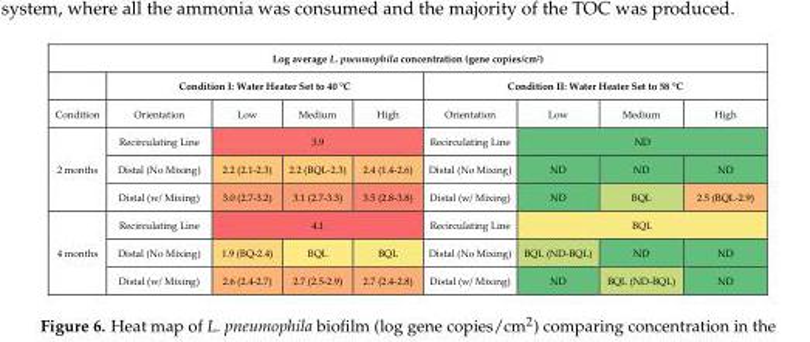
<table><thead><tr><td colspan="9">Log average L. pneumophila concentration (gene copies/cm<sup>2</sup>)</td></tr><tr><td rowspan="2">Condition</td><td colspan="4">Condition I: Water Heater Set to 40 °C</td><td colspan="4">Condition II: Water Heater Set to 58 °C</td></tr><tr><td>Orientation</td><td>Low</td><td>Medium</td><td>High</td><td>Orientation</td><td>Low</td><td>Medium</td><td>High</td></tr></thead><tbody><tr><td rowspan="3">2 months</td><td>Recirculating Line</td><td colspan="3">3.9</td><td>Recirculating Line</td><td colspan="3">ND</td></tr><tr><td>Distal (No Mixing)</td><td>2.2 (2.1-2.3)</td><td>2.2 (BQL-2.3)</td><td>2.4 (1.4-2.6)</td><td>Distal (No Mixing)</td><td>ND</td><td>ND</td><td>ND</td></tr><tr><td>Distal (w/ Mixing)</td><td>3.0 (2.7-3.2)</td><td>3.1 (2.7-3.3)</td><td>3.5 (2.8-3.8)</td><td>Distal (w/ Mixing)</td><td>ND</td><td>BQL</td><td>2.5 (BQL-2.9)</td></tr><tr><td rowspan="3">4 months</td><td>Recirculating Line</td><td colspan="3">4.1</td><td>Recirculating Line</td><td colspan="3">BQL</td></tr><tr><td>Distal (No Mixing)</td><td>1.9 (BQ-2.4)</td><td>BQL</td><td>BQL</td><td>Distal (No Mixing)</td><td>BQL (ND-BQL)</td><td>ND</td><td>ND</td></tr><tr><td>Distal (w/ Mixing)</td><td>2.6 (2.4-2.7)</td><td>2.7 (2.5-2.9)</td><td>2.7 (2.4-2.8)</td><td>Distal (w/ Mixing)</td><td>ND</td><td>BQL (ND-BQL)</td><td>ND</td></tr></tbody></table>